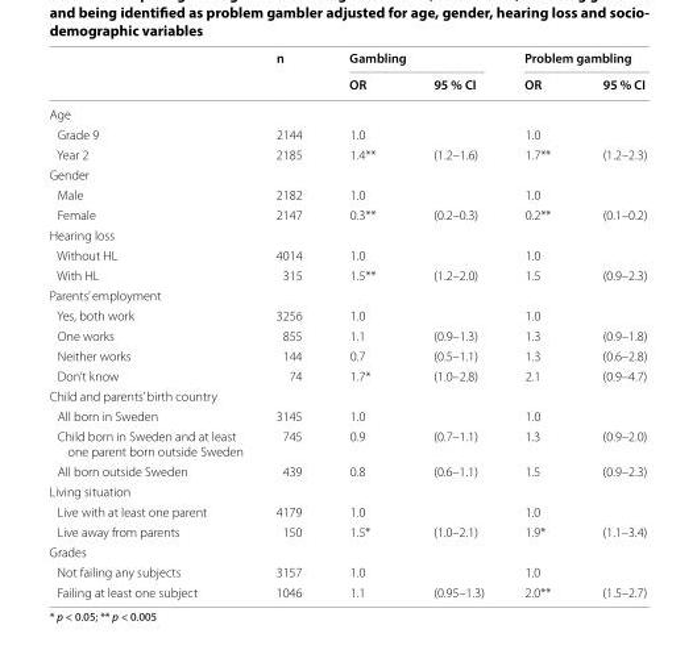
<table><thead><tr><td rowspan="2"></td><td rowspan="2">n</td><td colspan="2">Gambling</td><td colspan="2">Problem gambling</td></tr><tr><td>OR</td><td>95 % CI</td><td>OR</td><td>95 % CI</td></tr></thead><tbody><tr><td colspan="6">Age</td></tr><tr><td>Grade 9</td><td>2144</td><td>1.0</td><td></td><td>1.0</td><td></td></tr><tr><td>Year 2</td><td>2185</td><td>1.4**</td><td>(1.2–1.6)</td><td>1.7**</td><td>(1.2–2.3)</td></tr><tr><td colspan="6">Gender</td></tr><tr><td>Male</td><td>2182</td><td>1.0</td><td></td><td>1.0</td><td></td></tr><tr><td>Female</td><td>2147</td><td>0.3**</td><td>(0.2–0.3)</td><td>0.2**</td><td>(0.1–0.2)</td></tr><tr><td colspan="6">Hearing loss</td></tr><tr><td>Without HL</td><td>4014</td><td>1.0</td><td></td><td>1.0</td><td></td></tr><tr><td>With HL</td><td>315</td><td>1.5**</td><td>(1.2–2.0)</td><td>1.5</td><td>(0.9–2.3)</td></tr><tr><td colspan="6">Parents’ employment</td></tr><tr><td>Yes, both work</td><td>3256</td><td>1.0</td><td></td><td>1.0</td><td></td></tr><tr><td>One works</td><td>855</td><td>1.1</td><td>(0.9–1.3)</td><td>1.3</td><td>(0.9–1.8)</td></tr><tr><td>Neither works</td><td>144</td><td>0.7</td><td>(0.5–1.1)</td><td>1.3</td><td>(0.6–2.8)</td></tr><tr><td>Don’t know</td><td>74</td><td>1.7*</td><td>(1.0–2.8)</td><td>2.1</td><td>(0.9–4.7)</td></tr><tr><td colspan="6">Child and parents’ birth country</td></tr><tr><td>All born in Sweden</td><td>3145</td><td>1.0</td><td></td><td>1.0</td><td></td></tr><tr><td>Child born in Sweden and at least one parent born outside Sweden</td><td>745</td><td>0.9</td><td>(0.7–1.1)</td><td>1.3</td><td>(0.9–2.0)</td></tr><tr><td>All born outside Sweden</td><td>439</td><td>0.8</td><td>(0.6–1.1)</td><td>1.5</td><td>(0.9–2.3)</td></tr><tr><td colspan="6">Living situation</td></tr><tr><td>Live with at least one parent</td><td>4179</td><td>1.0</td><td></td><td>1.0</td><td></td></tr><tr><td>Live away from parents</td><td>150</td><td>1.5*</td><td>(1.0–2.1)</td><td>1.9*</td><td>(1.1–3.4)</td></tr><tr><td colspan="6">Grades</td></tr><tr><td>Not failing any subjects</td><td>3157</td><td>1.0</td><td></td><td>1.0</td><td></td></tr><tr><td>Failing at least one subject</td><td>1046</td><td>1.1</td><td>(0.95–1.3)</td><td>2.0**</td><td>(1.5–2.7)</td></tr></tbody></table>